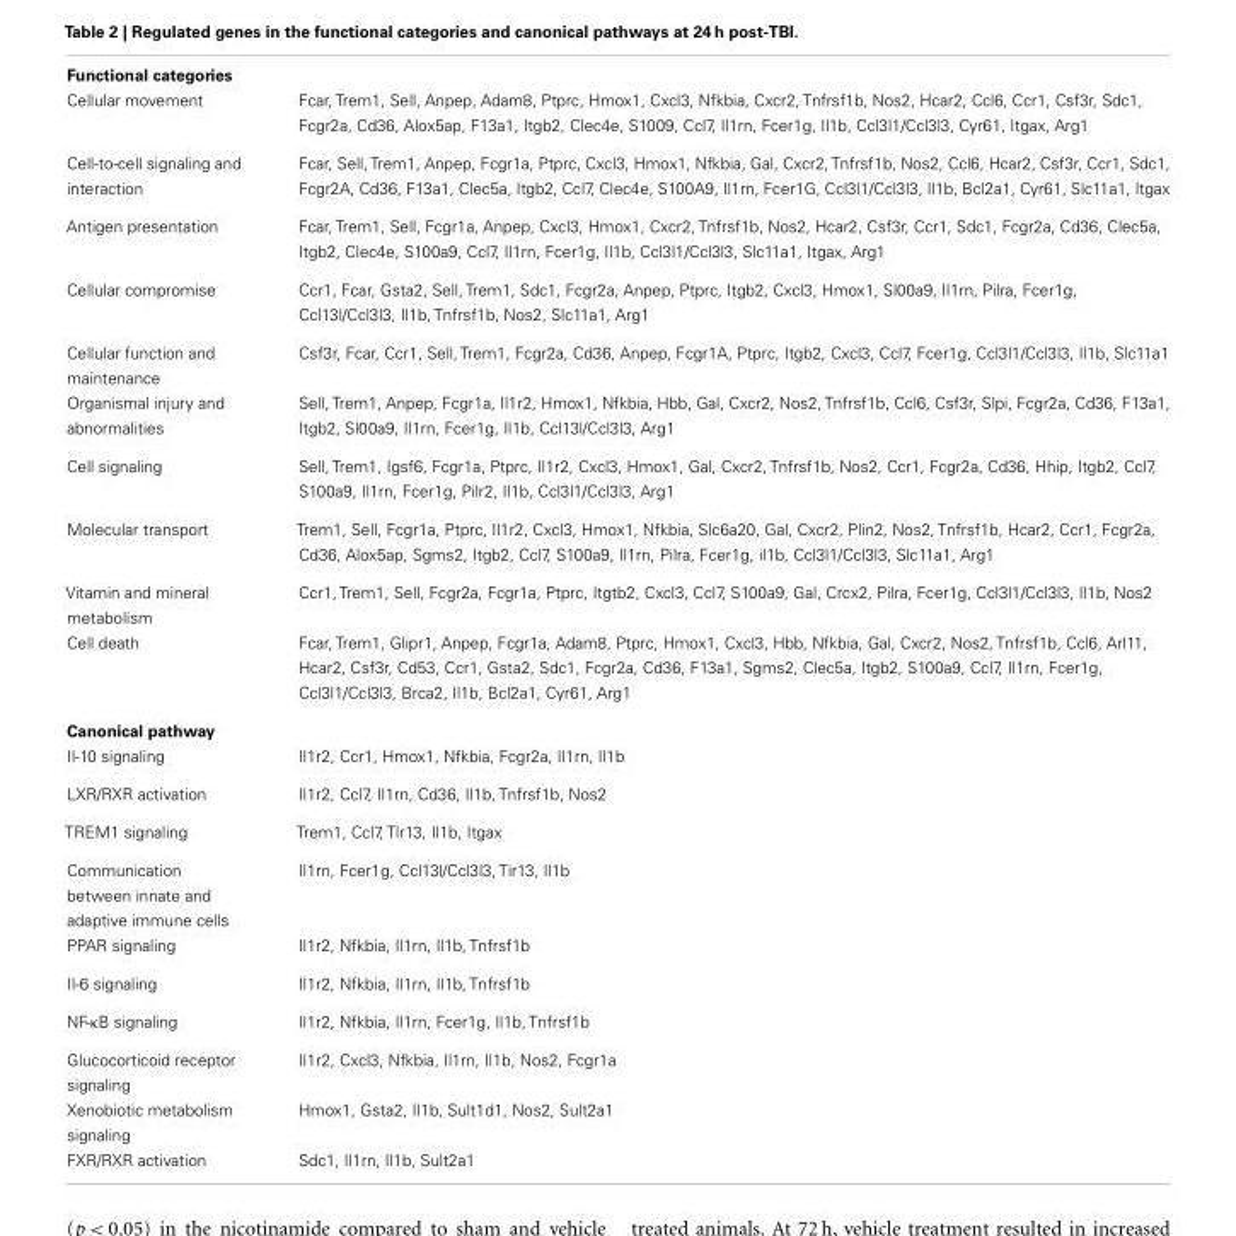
<table><tbody><tr><td colspan="2">Functional categories</td></tr><tr><td>Cellular movement</td><td>Fcar, Trem1, Sell, Anpep, Adam8, Ptprc, Hmox1, Cxcl3, Nfkbia, Cxcr2, Tnfrsf1b, Nos2, Hcar2, Ccl6, Ccr1, Csf3r, Sdc1, Fcgr2a, Cd36, Alox5ap, F13a1, Itgb2, Clec4e, S1009, Ccl7, Il1rn, Fcer1g, Il1b, Ccl3l1/Ccl3l3, Cyr61, Itgax, Arg1</td></tr><tr><td>Cell-to-cell signaling and interaction</td><td>Fcar, Sell,Trem1, Anpep, Fcgr1a, Ptprc, Cxcl3, Hmox1, Nfkbia, Gal, Cxcr2,Tnfrsf1b, Nos2, Ccl6, Hcar2, Csf3r, Ccr1, Sdc1, Fcgr2A, Cd36, F13a1, Clec5a, Itgb2, Ccl7, Clec4e, S100A9, Il1rn, Fcer1G, Ccl3l1/Ccl3l3, Il1b, Bcl2a1, Cyr61, Slc11a1, Itgax</td></tr><tr><td>Antigen presentation</td><td>Fcar, Trem1, Sell, Fcgr1a, Anpep, Cxcl3, Hmox1, Cxcr2, Tnfrsf1b, Nos2, Hcar2, Csf3r, Ccr1, Sdc1, Fcgr2a, Cd36, Clec5a, Itgb2, Clec4e, S100a9, Ccl7, Il1rn, Fcer1g, Il1b, Ccl3l1/Ccl3l3, Slc11a1, Itgax, Arg1</td></tr><tr><td>Cellular compromise</td><td>Ccr1, Fcar, Gsta2, Sell, Trem1, Sdc1, Fcgr2a, Anpep, Ptprc, Itgb2, Cxcl3, Hmox1, Sl00a9, Il1rn, Pilra, Fcer1g, Ccl13l/Ccl3l3, Il1b, Tnfrsf1b, Nos2, Slc11a1, Arg1</td></tr><tr><td>Cellular function and maintenance</td><td>Csf3r, Fcar, Ccr1, Sell, Trem1, Fcgr2a, Cd36, Anpep, Fcgr1A, Ptprc, Itgb2, Cxcl3, Ccl7, Fcer1g, Ccl3l1/Ccl3l3, Il1b, Slc11a1</td></tr><tr><td>Organismal injury and abnormalities</td><td>Sell, Trem1, Anpep, Fcgr1a, Il1r2, Hmox1, Nfkbia, Hbb, Gal, Cxcr2, Nos2,Tnfrsf1b, Ccl6, Csf3r, Slpi, Fcgr2a, Cd36, F13a1, Itgb2, Sl00a9, Il1rn, Fcer1g, Il1b, Ccl13l/Ccl3l3, Arg1</td></tr><tr><td>Cell signaling</td><td>Sell, Trem1, Igsf6, Fcgr1a, Ptprc, Il1r2, Cxcl3, Hmox1, Gal, Cxcr2, Tnfrsf1b, Nos2, Ccr1, Fcgr2a, Cd36, Hhip, Itgb2, Ccl7, S100a9, Il1rn, Fcer1g, Pilr2, Il1b, Ccl3l1/Ccl3l3, Arg1</td></tr><tr><td>Molecular transport</td><td>Trem1, Sell, Fcgr1a, Ptprc, Il1r2, Cxcl3, Hmox1, Nfkbia, Slc6a20, Gal, Cxcr2, Plin2, Nos2, Tnfrsf1b, Hcar2, Ccr1, Fcgr2a, Cd36, Alox5ap, Sgms2, Itgb2, Ccl7, S100a9, Il1rn, Pilra, Fcer1g, il1b, Ccl3l1/Ccl3l3, Slc11a1, Arg1</td></tr><tr><td>Vitamin and mineral metabolism</td><td>Ccr1, Trem1, Sell, Fcgr2a, Fcgr1a, Ptprc, Itgtb2, Cxcl3, Ccl7, S100a9, Gal, Crcx2, Pilra, Fcer1g, Ccl3l1/Ccl3l3, Il1b, Nos2</td></tr><tr><td>Cell death</td><td>Fcar, Trem1, Glipr1, Anpep, Fcgr1a, Adam8, Ptprc, Hmox1, Cxcl3, Hbb, Nfkbia, Gal, Cxcr2, Nos2, Tnfrsf1b, Ccl6, Arl11, Hcar2, Csf3r, Cd53, Ccr1, Gsta2, Sdc1, Fcgr2a, Cd36, F13a1, Sgms2, Clec5a, Itgb2, S100a9, Ccl7, Il1rn, Fcer1g, Ccl3l1/Ccl3l3, Brca2, Il1b, Bcl2a1, Cyr61, Arg1</td></tr><tr><td colspan="2">Canonical pathway</td></tr><tr><td>Il-10 signaling</td><td>Il1r2, Ccr1, Hmox1, Nfkbia, Fcgr2a, Il1rn, Il1b</td></tr><tr><td>LXR/RXR activation</td><td>Il1r2, Ccl7, Il1rn, Cd36, Il1b, Tnfrsf1b, Nos2</td></tr><tr><td>TREM1 signaling</td><td>Trem1, Ccl7, Tlr13, Il1b, Itgax</td></tr><tr><td>Communication between innate and adaptive immune cells</td><td>Il1rn, Fcer1g, Ccl13l/Ccl3l3, Tir13, Il1b</td></tr><tr><td>PPAR signaling</td><td>Il1r2, Nfkbia, Il1rn, Il1b, Tnfrsf1b</td></tr><tr><td>Il-6 signaling</td><td>Il1r2, Nfkbia, Il1rn, Il1b, Tnfrsf1b</td></tr><tr><td>NF-κB signaling</td><td>Il1r2, Nfkbia, Il1rn, Fcer1g, Il1b, Tnfrsf1b</td></tr><tr><td>Glucocorticoid receptor signaling</td><td>Il1r2, Cxcl3, Nfkbia, Il1rn, Il1b, Nos2, Fcgr1a</td></tr><tr><td>Xenobiotic metabolism signaling</td><td>Hmox1, Gsta2, Il1b, Sult1d1, Nos2, Sult2a1</td></tr><tr><td>FXR/RXR activation</td><td>Sdc1, Il1rn, Il1b, Sult2a1</td></tr></tbody></table>